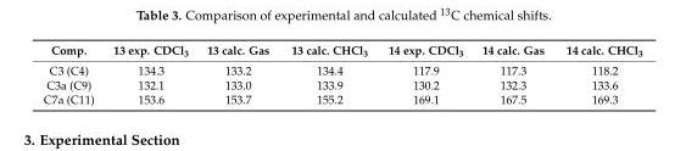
<table><thead><tr><td>Comp.</td><td>13 exp. CDCl3</td><td>13 calc. Gas</td><td>13 calc. CHCl3</td><td>14 exp. CDCl3</td><td>14 calc. Gas</td><td>14 calc. CHCl3</td></tr></thead><tbody><tr><td>C3 (C4)</td><td>134.3</td><td>133.2</td><td>134.4</td><td>117.9</td><td>117.3</td><td>118.2</td></tr><tr><td>C3a (C9)</td><td>132.1</td><td>133.0</td><td>133.9</td><td>130.2</td><td>132.3</td><td>133.6</td></tr><tr><td>C7a (C11)</td><td>153.6</td><td>153.7</td><td>155.2</td><td>169.1</td><td>167.5</td><td>169.3</td></tr></tbody></table>